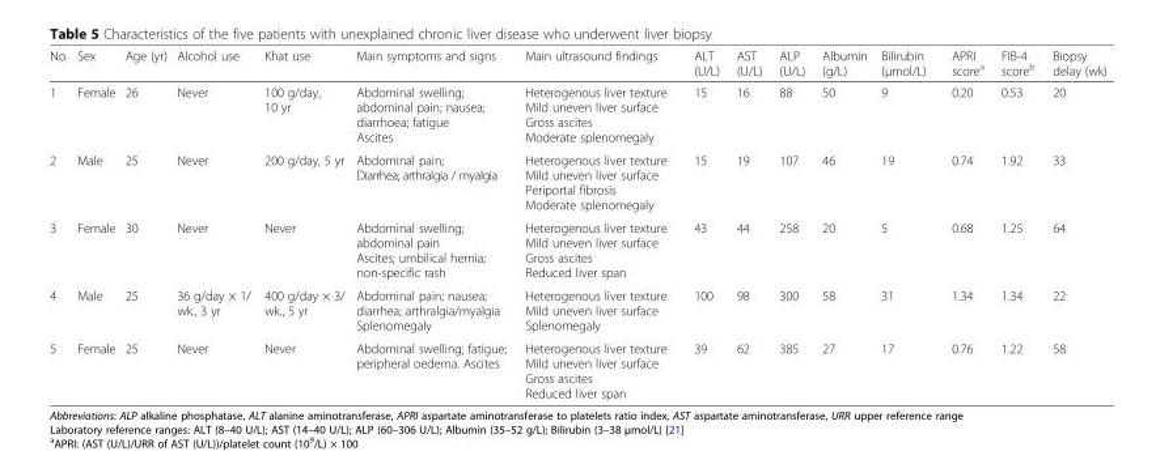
<table><thead><tr><td>No.</td><td>Sex</td><td>Age (yr)</td><td>Alcohol use</td><td>Khat use</td><td>Main symptoms and signs</td><td>Main ultrasound findings</td><td>ALT (U/L)</td><td>AST (U/L)</td><td>ALP (U/L)</td><td>Albumin (g/L)</td><td>Bilirubin (μmol/L)</td><td>APRI score<sup>a</sup></td><td>FIB-4 score<sup>b</sup></td><td>Biopsy delay (wk)</td></tr></thead><tbody><tr><td>1</td><td>Female</td><td>26</td><td>Never</td><td>100 g/day, 10 yr</td><td>Abdominal swelling; abdominal pain; nausea; diarrhoea; fatigue Ascites</td><td>Heterogenous liver texture Mild uneven liver surface Gross ascites Moderate splenomegaly</td><td>15</td><td>16</td><td>88</td><td>50</td><td>9</td><td>0.20</td><td>0.53</td><td>20</td></tr><tr><td>2</td><td>Male</td><td>25</td><td>Never</td><td>200 g/day, 5 yr</td><td>Abdominal pain; Diarrhea; arthralgia / myalgia</td><td>Heterogenous liver texture Mild uneven liver surface Periportal fibrosis Moderate splenomegaly</td><td>15</td><td>19</td><td>107</td><td>46</td><td>19</td><td>0.74</td><td>1.92</td><td>33</td></tr><tr><td>3</td><td>Female</td><td>30</td><td>Never</td><td>Never</td><td>Abdominal swelling; abdominal pain Ascites; umbilical hernia; non-specific rash</td><td>Heterogenous liver texture Mild uneven liver surface Gross ascites Reduced liver span</td><td>43</td><td>44</td><td>258</td><td>20</td><td>5</td><td>0.68</td><td>1.25</td><td>64</td></tr><tr><td>4</td><td>Male</td><td>25</td><td>36 g/day × 1/ wk., 3 yr</td><td>400 g/day × 3/ wk., 5 yr</td><td>Abdominal pain; nausea; diarrhea; arthralgia/myalgia Splenomegaly</td><td>Heterogenous liver texture Mild uneven liver surface Splenomegaly</td><td>100</td><td>98</td><td>300</td><td>58</td><td>31</td><td>1.34</td><td>1.34</td><td>22</td></tr><tr><td>5</td><td>Female</td><td>25</td><td>Never</td><td>Never</td><td>Abdominal swelling; fatigue; peripheral oedema. Ascites</td><td>Heterogenous liver texture Mild uneven liver surface Gross ascites Reduced liver span</td><td>39</td><td>62</td><td>385</td><td>27</td><td>17</td><td>0.76</td><td>1.22</td><td>58</td></tr></tbody></table>